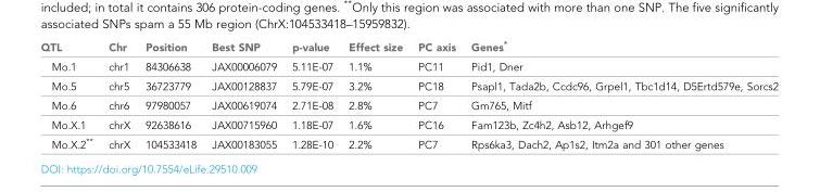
<table><thead><tr><td>QTL</td><td>Chr</td><td>Position</td><td>Best SNP</td><td>p-value</td><td>Effect size</td><td>PC axis</td><td>Genes*</td></tr></thead><tbody><tr><td>Mo.1</td><td>chr1</td><td>84306638</td><td>JAX00006079</td><td>5.11E-07</td><td>1.1%</td><td>PC11</td><td>Pid1, Dner</td></tr><tr><td>Mo.5</td><td>chr5</td><td>36723779</td><td>JAX00128837</td><td>5.79E-07</td><td>3.2%</td><td>PC18</td><td>Psapl1, Tada2b, Ccdc96, Grpel1, Tbc1d14, D5Ertd579e, Sorcs2</td></tr><tr><td>Mo.6</td><td>chr6</td><td>97980057</td><td>JAX00619074</td><td>2.71E-08</td><td>2.8%</td><td>PC7</td><td>Gm765, Mitf</td></tr><tr><td>Mo.X.1</td><td>chrX</td><td>92638616</td><td>JAX00715960</td><td>1.18E-07</td><td>1.6%</td><td>PC16</td><td>Fam123b, Zc4h2, Asb12, Arhgef9</td></tr><tr><td>Mo.X.2**</td><td>chrX</td><td>104533418</td><td>JAX00183055</td><td>1.28E-10</td><td>2.2%</td><td>PC7</td><td>Rps6ka3, Dach2, Ap1s2, Itm2a and 301 other genes</td></tr></tbody></table>